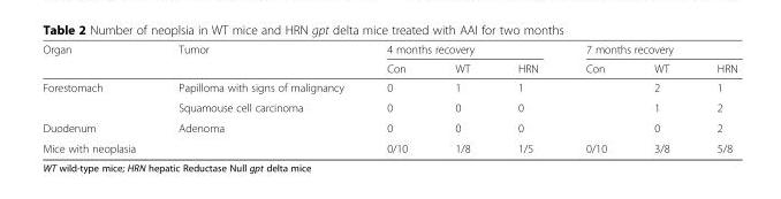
<table><thead><tr><td rowspan="2">Organ</td><td rowspan="2">Tumor</td><td colspan="3">4 months recovery</td><td colspan="3">7 months recovery</td></tr><tr><td>Con</td><td>WT</td><td>HRN</td><td>Con</td><td>WT</td><td>HRN</td></tr></thead><tbody><tr><td rowspan="2">Forestomach</td><td>Papilloma with signs of malignancy</td><td>0</td><td>1</td><td>1</td><td></td><td>2</td><td>1</td></tr><tr><td>Squamouse cell carcinoma</td><td>0</td><td>0</td><td>0</td><td></td><td>1</td><td>2</td></tr><tr><td>Duodenum</td><td>Adenoma</td><td>0</td><td>0</td><td>0</td><td></td><td>0</td><td>2</td></tr><tr><td>Mice with neoplasia</td><td></td><td>0/10</td><td>1/8</td><td>1/5</td><td>0/10</td><td>3/8</td><td>5/8</td></tr></tbody></table>